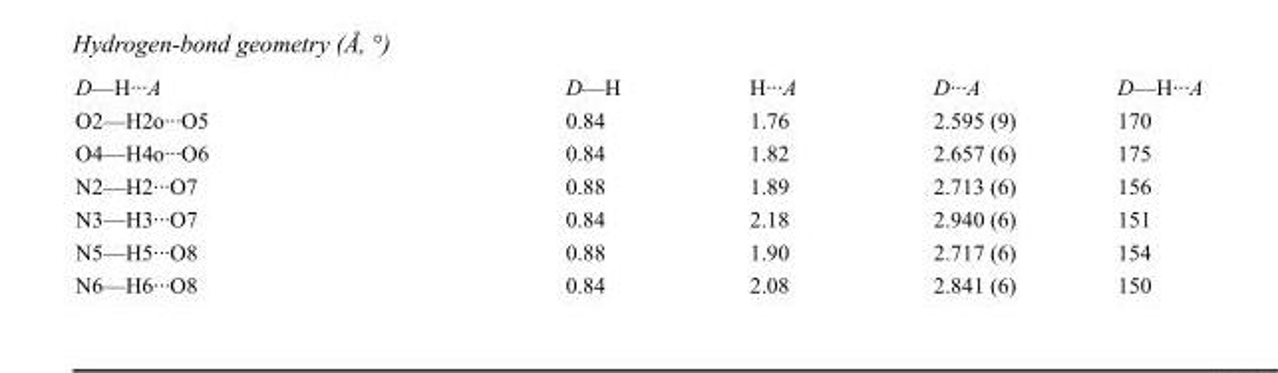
<table><tbody><tr><td>D—H···A</td><td>D—H</td><td>H···A</td><td>D···A</td><td>D—H···A</td></tr><tr><td>O2—H2o···O5</td><td>0.84</td><td>1.76</td><td>2.595 (9)</td><td>170</td></tr><tr><td>O4—H4o···O6</td><td>0.84</td><td>1.82</td><td>2.657 (6)</td><td>175</td></tr><tr><td>N2—H2···O7</td><td>0.88</td><td>1.89</td><td>2.713 (6)</td><td>156</td></tr><tr><td>N3—H3···O7</td><td>0.84</td><td>2.18</td><td>2.940 (6)</td><td>151</td></tr><tr><td>N5—H5···O8</td><td>0.88</td><td>1.90</td><td>2.717 (6)</td><td>154</td></tr><tr><td>N6—H6···O8</td><td>0.84</td><td>2.08</td><td>2.841 (6)</td><td>150</td></tr></tbody></table>